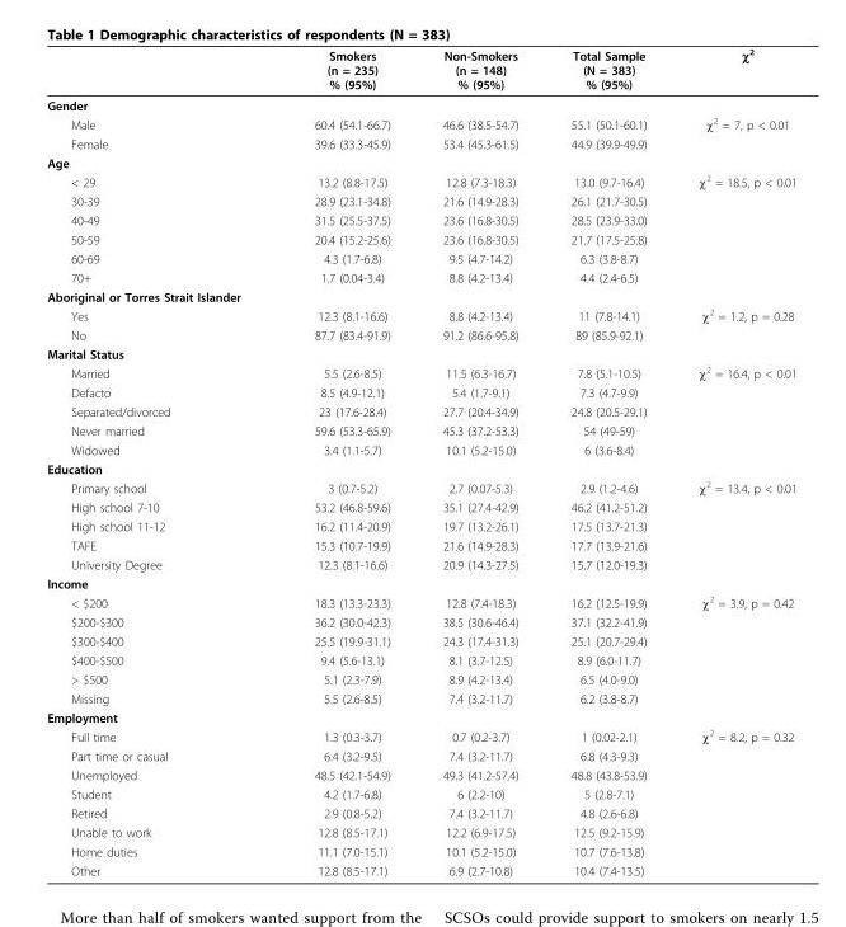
<table><thead><tr><td></td><td>Smokers (n = 235) % (95%)</td><td>Non-Smokers (n = 148) % (95%)</td><td>Total Sample (N = 383) % (95%)</td><td>χ<sup>2</sup></td></tr></thead><tbody><tr><td colspan="5">Gender</td></tr><tr><td>Male</td><td>60.4 (54.1-66.7)</td><td>46.6 (38.5-54.7)</td><td>55.1 (50.1-60.1)</td><td>χ<sup>2</sup> = 7, p &lt; 0.01</td></tr><tr><td>Female</td><td>39.6 (33.3-45.9)</td><td>53.4 (45.3-61.5)</td><td>44.9 (39.9-49.9)</td><td></td></tr><tr><td colspan="5">Age</td></tr><tr><td>&lt; 29</td><td>13.2 (8.8-17.5)</td><td>12.8 (7.3-18.3)</td><td>13.0 (9.7-16.4)</td><td>χ<sup>2</sup> = 18.5, p &lt; 0.01</td></tr><tr><td>30-39</td><td>28.9 (23.1-34.8)</td><td>21.6 (14.9-28.3)</td><td>26.1 (21.7-30.5)</td><td></td></tr><tr><td>40-49</td><td>31.5 (25.5-37.5)</td><td>23.6 (16.8-30.5)</td><td>28.5 (23.9-33.0)</td><td></td></tr><tr><td>50-59</td><td>20.4 (15.2-25.6)</td><td>23.6 (16.8-30.5)</td><td>21.7 (17.5-25.8)</td><td></td></tr><tr><td>60-69</td><td>4.3 (1.7-6.8)</td><td>9.5 (4.7-14.2)</td><td>6.3 (3.8-8.7)</td><td></td></tr><tr><td>70+</td><td>1.7 (0.04-3.4)</td><td>8.8 (4.2-13.4)</td><td>4.4 (2.4-6.5)</td><td></td></tr><tr><td colspan="5">Aboriginal or Torres Strait Islander</td></tr><tr><td>Yes</td><td>12.3 (8.1-16.6)</td><td>8.8 (4.2-13.4)</td><td>11 (7.8-14.1)</td><td>χ<sup>2</sup> = 1.2, p = 0.28</td></tr><tr><td>No</td><td>87.7 (83.4-91.9)</td><td>91.2 (86.6-95.8)</td><td>89 (85.9-92.1)</td><td></td></tr><tr><td colspan="5">Marital Status</td></tr><tr><td>Married</td><td>5.5 (2.6-8.5)</td><td>11.5 (6.3-16.7)</td><td>7.8 (5.1-10.5)</td><td>χ<sup>2</sup> = 16.4, p &lt; 0.01</td></tr><tr><td>Defacto</td><td>8.5 (4.9-12.1)</td><td>5.4 (1.7-9.1)</td><td>7.3 (4.7-9.9)</td><td></td></tr><tr><td>Separated/divorced</td><td>23 (17.6-28.4)</td><td>27.7 (20.4-34.9)</td><td>24.8 (20.5-29.1)</td><td></td></tr><tr><td>Never married</td><td>59.6 (53.3-65.9)</td><td>45.3 (37.2-53.3)</td><td>54 (49-59)</td><td></td></tr><tr><td>Widowed</td><td>3.4 (1.1-5.7)</td><td>10.1 (5.2-15.0)</td><td>6 (3.6-8.4)</td><td></td></tr><tr><td colspan="5">Education</td></tr><tr><td>Primary school</td><td>3 (0.7-5.2)</td><td>2.7 (0.07-5.3)</td><td>2.9 (1.2-4.6)</td><td>χ<sup>2</sup> = 13.4, p &lt; 0.01</td></tr><tr><td>High school 7-10</td><td>53.2 (46.8-59.6)</td><td>35.1 (27.4-42.9)</td><td>46.2 (41.2-51.2)</td><td></td></tr><tr><td>High school 11-12</td><td>16.2 (11.4-20.9)</td><td>19.7 (13.2-26.1)</td><td>17.5 (13.7-21.3)</td><td></td></tr><tr><td>TAFE</td><td>15.3 (10.7-19.9)</td><td>21.6 (14.9-28.3)</td><td>17.7 (13.9-21.6)</td><td></td></tr><tr><td>University Degree</td><td>12.3 (8.1-16.6)</td><td>20.9 (14.3-27.5)</td><td>15.7 (12.0-19.3)</td><td></td></tr><tr><td colspan="5">Income</td></tr><tr><td>&lt; $200</td><td>18.3 (13.3-23.3)</td><td>12.8 (7.4-18.3)</td><td>16.2 (12.5-19.9)</td><td>χ<sup>2</sup> = 3.9, p = 0.42</td></tr><tr><td>$200-$300</td><td>36.2 (30.0-42.3)</td><td>38.5 (30.6-46.4)</td><td>37.1 (32.2-41.9)</td><td></td></tr><tr><td>$300-$400</td><td>25.5 (19.9-31.1)</td><td>24.3 (17.4-31.3)</td><td>25.1 (20.7-29.4)</td><td></td></tr><tr><td>$400-$500</td><td>9.4 (5.6-13.1)</td><td>8.1 (3.7-12.5)</td><td>8.9 (6.0-11.7)</td><td></td></tr><tr><td>&gt; $500</td><td>5.1 (2.3-7.9)</td><td>8.9 (4.2-13.4)</td><td>6.5 (4.0-9.0)</td><td></td></tr><tr><td>Missing</td><td>5.5 (2.6-8.5)</td><td>7.4 (3.2-11.7)</td><td>6.2 (3.8-8.7)</td><td></td></tr><tr><td colspan="5">Employment</td></tr><tr><td>Full time</td><td>1.3 (0.3-3.7)</td><td>0.7 (0.2-3.7)</td><td>1 (0.02-2.1)</td><td>χ<sup>2</sup> = 8.2, p = 0.32</td></tr><tr><td>Part time or casual</td><td>6.4 (3.2-9.5)</td><td>7.4 (3.2-11.7)</td><td>6.8 (4.3-9.3)</td><td></td></tr><tr><td>Unemployed</td><td>48.5 (42.1-54.9)</td><td>49.3 (41.2-57.4)</td><td>48.8 (43.8-53.9)</td><td></td></tr><tr><td>Student</td><td>4.2 (1.7-6.8)</td><td>6 (2.2-10)</td><td>5 (2.8-7.1)</td><td></td></tr><tr><td>Retired</td><td>2.9 (0.8-5.2)</td><td>7.4 (3.2-11.7)</td><td>4.8 (2.6-6.8)</td><td></td></tr><tr><td>Unable to work</td><td>12.8 (8.5-17.1)</td><td>12.2 (6.9-17.5)</td><td>12.5 (9.2-15.9)</td><td></td></tr><tr><td>Home duties</td><td>11.1 (7.0-15.1)</td><td>10.1 (5.2-15.0)</td><td>10.7 (7.6-13.8)</td><td></td></tr><tr><td>Other</td><td>12.8 (8.5-17.1)</td><td>6.9 (2.7-10.8)</td><td>10.4 (7.4-13.5)</td><td></td></tr></tbody></table>